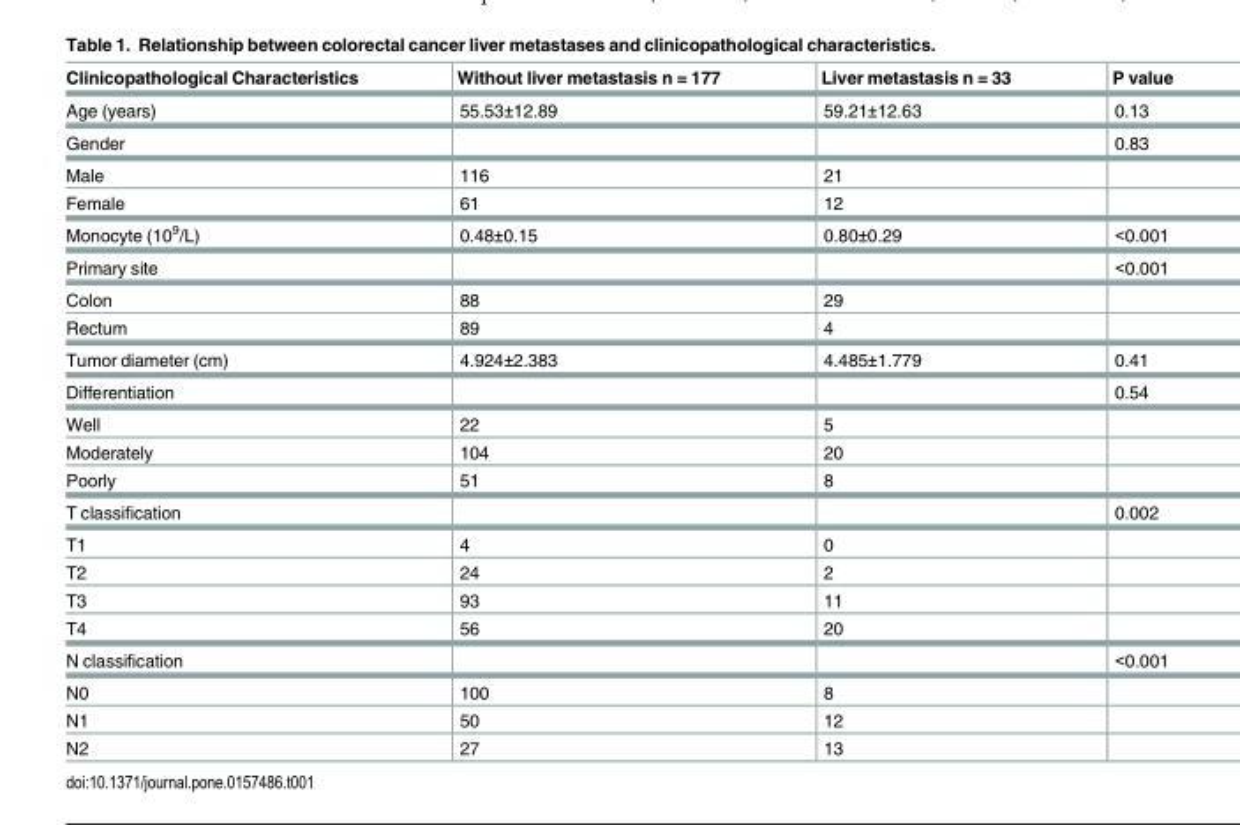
<table><thead><tr><td>Clinicopathological Characteristics</td><td>Without liver metastasis n = 177</td><td>Liver metastasis n = 33</td><td>P value</td></tr></thead><tbody><tr><td>Age (years)</td><td>55.53±12.89</td><td>59.21±12.63</td><td>0.13</td></tr><tr><td>Gender</td><td></td><td></td><td>0.83</td></tr><tr><td>Male</td><td>116</td><td>21</td><td></td></tr><tr><td>Female</td><td>61</td><td>12</td><td></td></tr><tr><td>Monocyte (10<sup>9</sup>/L)</td><td>0.48±0.15</td><td>0.80±0.29</td><td>&lt;0.001</td></tr><tr><td>Primary site</td><td></td><td></td><td>&lt;0.001</td></tr><tr><td>Colon</td><td>88</td><td>29</td><td></td></tr><tr><td>Rectum</td><td>89</td><td>4</td><td></td></tr><tr><td>Tumor diameter (cm)</td><td>4.924±2.383</td><td>4.485±1.779</td><td>0.41</td></tr><tr><td>Differentiation</td><td></td><td></td><td>0.54</td></tr><tr><td>Well</td><td>22</td><td>5</td><td></td></tr><tr><td>Moderately</td><td>104</td><td>20</td><td></td></tr><tr><td>Poorly</td><td>51</td><td>8</td><td></td></tr><tr><td>T classification</td><td></td><td></td><td>0.002</td></tr><tr><td>T1</td><td>4</td><td>0</td><td></td></tr><tr><td>T2</td><td>24</td><td>2</td><td></td></tr><tr><td>T3</td><td>93</td><td>11</td><td></td></tr><tr><td>T4</td><td>56</td><td>20</td><td></td></tr><tr><td>N classification</td><td></td><td></td><td>&lt;0.001</td></tr><tr><td>N0</td><td>100</td><td>8</td><td></td></tr><tr><td>N1</td><td>50</td><td>12</td><td></td></tr><tr><td>N2</td><td>27</td><td>13</td><td></td></tr></tbody></table>